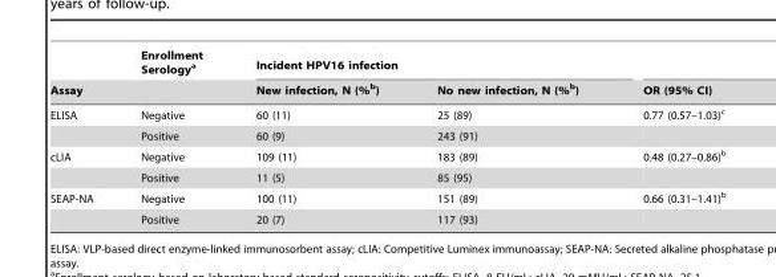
<table><thead><tr><td rowspan="2">Assay</td><td rowspan="2">Enrollment Serology<sup>a</sup></td><td colspan="2">Incident HPV16 infection</td><td rowspan="2">OR (95% CI)</td></tr><tr><td>New infection, N (%<sup>b</sup>)</td><td>No new infection, N (%<sup>b</sup>)</td></tr></thead><tbody><tr><td rowspan="2">ELISA</td><td>Negative</td><td>60 (11)</td><td>25 (89)</td><td>0.77 (0.57–1.03)<sup>c</sup></td></tr><tr><td>Positive</td><td>60 (9)</td><td>243 (91)</td><td></td></tr><tr><td rowspan="2">cLIA</td><td>Negative</td><td>109 (11)</td><td>183 (89)</td><td>0.48 (0.27–0.86)<sup>b</sup></td></tr><tr><td>Positive</td><td>11 (5)</td><td>85 (95)</td><td></td></tr><tr><td rowspan="2">SEAP-NA</td><td>Negative</td><td>100 (11)</td><td>151 (89)</td><td>0.66 (0.31–1.41)<sup>b</sup></td></tr><tr><td>Positive</td><td>20 (7)</td><td>117 (93)</td><td></td></tr></tbody></table>